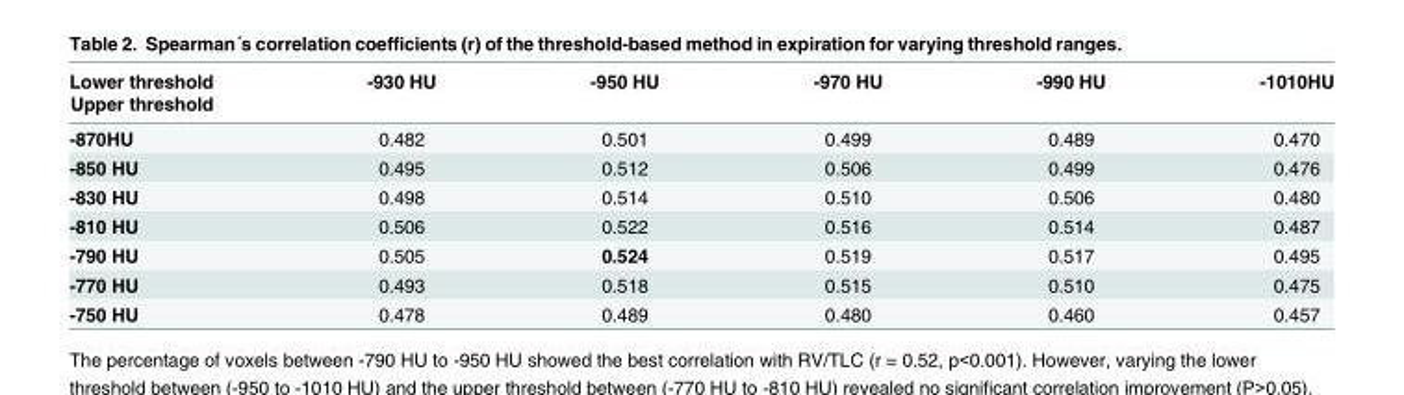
<table><thead><tr><td>Lower threshold Upper threshold</td><td>-930 HU</td><td>-950 HU</td><td>-970 HU</td><td>-990 HU</td><td>-1010HU</td></tr></thead><tbody><tr><td>-870HU</td><td>0.482</td><td>0.501</td><td>0.499</td><td>0.489</td><td>0.470</td></tr><tr><td>-850 HU</td><td>0.495</td><td>0.512</td><td>0.506</td><td>0.499</td><td>0.476</td></tr><tr><td>-830 HU</td><td>0.498</td><td>0.514</td><td>0.510</td><td>0.506</td><td>0.480</td></tr><tr><td>-810 HU</td><td>0.506</td><td>0.522</td><td>0.516</td><td>0.514</td><td>0.487</td></tr><tr><td>-790 HU</td><td>0.505</td><td>0.524</td><td>0.519</td><td>0.517</td><td>0.495</td></tr><tr><td>-770 HU</td><td>0.493</td><td>0.518</td><td>0.515</td><td>0.510</td><td>0.475</td></tr><tr><td>-750 HU</td><td>0.478</td><td>0.489</td><td>0.480</td><td>0.460</td><td>0.457</td></tr></tbody></table>